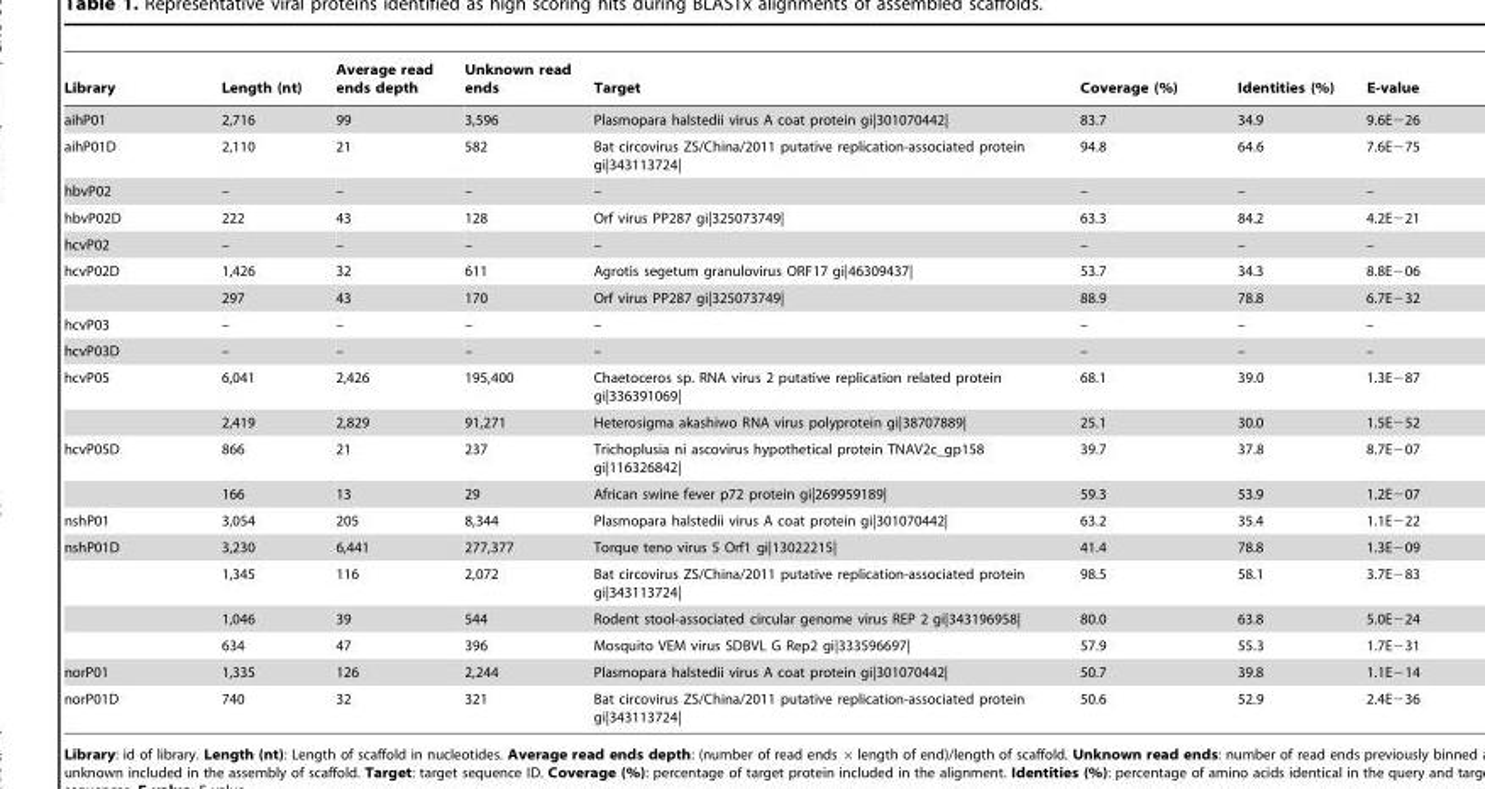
<table><thead><tr><td>Library</td><td>Length (nt)</td><td>Average read ends depth</td><td>Unknown read ends</td><td>Target</td><td>Coverage (%)</td><td>Identities (%)</td><td>E-value</td></tr></thead><tbody><tr><td>aihP01</td><td>2,716</td><td>99</td><td>3,596</td><td>Plasmopara halstedii virus A coat protein gi|301070442|</td><td>83.7</td><td>34.9</td><td>9.6E−26</td></tr><tr><td>aihP01D</td><td>2,110</td><td>21</td><td>582</td><td>Bat circovirus ZS/China/2011 putative replication-associated protein gi|343113724|</td><td>94.8</td><td>64.6</td><td>7.6E−75</td></tr><tr><td>hbvP02</td><td>–</td><td>–</td><td>–</td><td>–</td><td>–</td><td>–</td><td>–</td></tr><tr><td>hbvP02D</td><td>222</td><td>43</td><td>128</td><td>Orf virus PP287 gi|325073749|</td><td>63.3</td><td>84.2</td><td>4.2E−21</td></tr><tr><td>hcvP02</td><td>–</td><td>–</td><td>–</td><td>–</td><td>–</td><td>–</td><td>–</td></tr><tr><td rowspan="2">hcvP02D</td><td>1,426</td><td>32</td><td>611</td><td>Agrotis segetum granulovirus ORF17 gi|46309437|</td><td>53.7</td><td>34.3</td><td>8.8E−06</td></tr><tr><td>297</td><td>43</td><td>170</td><td>Orf virus PP287 gi|325073749|</td><td>88.9</td><td>78.8</td><td>6.7E−32</td></tr><tr><td>hcvP03</td><td>–</td><td>–</td><td>–</td><td>–</td><td>–</td><td>–</td><td>–</td></tr><tr><td>hcvP03D</td><td>–</td><td>–</td><td>–</td><td>–</td><td>–</td><td>–</td><td>–</td></tr><tr><td rowspan="2">hcvP05</td><td>6,041</td><td>2,426</td><td>195,400</td><td>Chaetoceros sp. RNA virus 2 putative replication related protein gi|336391069|</td><td>68.1</td><td>39.0</td><td>1.3E−87</td></tr><tr><td>2,419</td><td>2,829</td><td>91,271</td><td>Heterosigma akashiwo RNA virus polyprotein gi|38707889|</td><td>25.1</td><td>30.0</td><td>1.5E−52</td></tr><tr><td rowspan="2">hcvP05D</td><td>866</td><td>21</td><td>237</td><td>Trichoplusia ni ascovirus hypothetical protein TNAV2c_gp158 gi|116326842|</td><td>39.7</td><td>37.8</td><td>8.7E−07</td></tr><tr><td>166</td><td>13</td><td>29</td><td>African swine fever p72 protein gi|269959189|</td><td>59.3</td><td>53.9</td><td>1.2E−07</td></tr><tr><td>nshP01</td><td>3,054</td><td>205</td><td>8,344</td><td>Plasmopara halstedii virus A coat protein gi|301070442|</td><td>63.2</td><td>35.4</td><td>1.1E−22</td></tr><tr><td rowspan="4">nshP01D</td><td>3,230</td><td>6,441</td><td>277,377</td><td>Torque teno virus 5 Orf1 gi|13022215|</td><td>41.4</td><td>78.8</td><td>1.3E−09</td></tr><tr><td>1,345</td><td>116</td><td>2,072</td><td>Bat circovirus ZS/China/2011 putative replication-associated protein gi|343113724|</td><td>98.5</td><td>58.1</td><td>3.7E−83</td></tr><tr><td>1,046</td><td>39</td><td>544</td><td>Rodent stool-associated circular genome virus REP 2 gi|343196958|</td><td>80.0</td><td>63.8</td><td>5.0E−24</td></tr><tr><td>634</td><td>47</td><td>396</td><td>Mosquito VEM virus SDBVL G Rep2 gi|333596697|</td><td>57.9</td><td>55.3</td><td>1.7E−31</td></tr><tr><td>norP01</td><td>1,335</td><td>126</td><td>2,244</td><td>Plasmopara halstedii virus A coat protein gi|301070442|</td><td>50.7</td><td>39.8</td><td>1.1E−14</td></tr><tr><td>norP01D</td><td>740</td><td>32</td><td>321</td><td>Bat circovirus ZS/China/2011 putative replication-associated protein gi|343113724|</td><td>50.6</td><td>52.9</td><td>2.4E−36</td></tr></tbody></table>